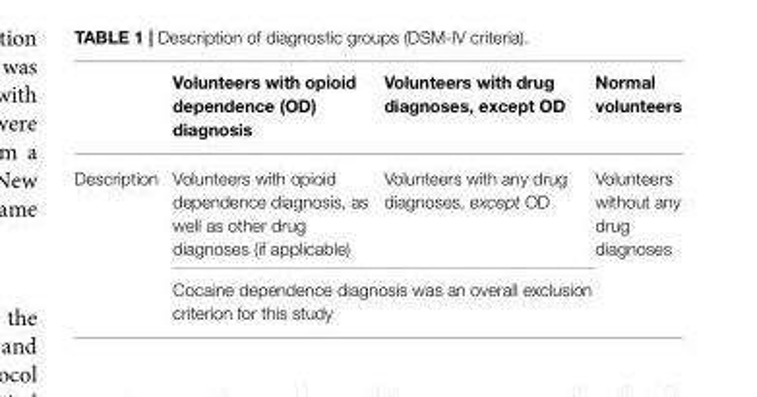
<table><thead><tr><td></td><td>Volunteers with opioid dependence (OD) diagnosis</td><td>Volunteers with drug diagnoses, except OD</td><td>Normal volunteers</td></tr></thead><tbody><tr><td rowspan="2">Description</td><td>Volunteers with opioid dependence diagnosis, as well as other drug diagnoses (if applicable)</td><td>Volunteers with any drug diagnoses, except OD</td><td>Volunteers without any drug diagnoses</td></tr><tr><td colspan="2">Cocaine dependence diagnosis was an overall exclusion criterion for this study</td><td></td></tr></tbody></table>